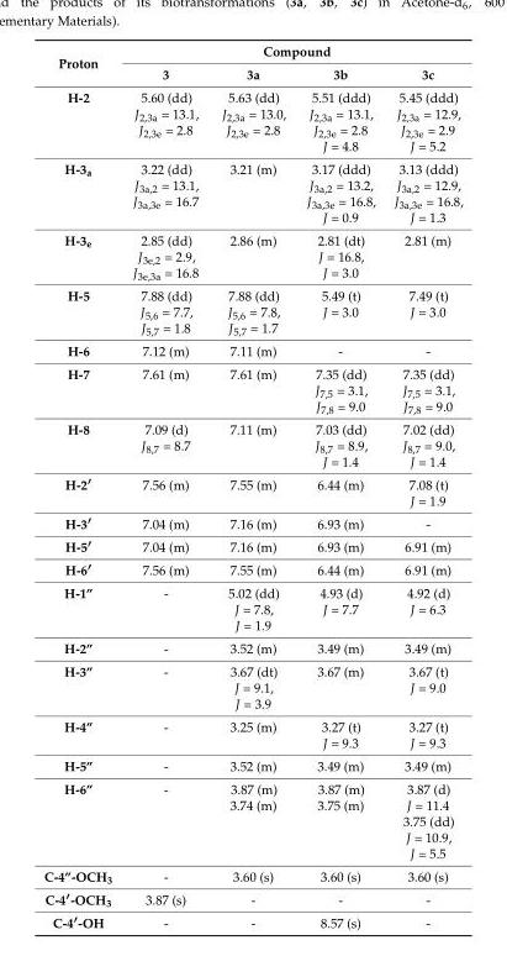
<table><thead><tr><td rowspan="2">Proton</td><td colspan="4">Compound</td></tr><tr><td>3</td><td>3a</td><td>3b</td><td>3c</td></tr></thead><tbody><tr><td>H-2</td><td>5.60 (dd) J2,3a = 13.1, J2,3e = 2.8</td><td>5.63 (dd) J2,3a = 13.0, J2,3e = 2.8</td><td>5.51 (ddd) J2,3a = 13.1, J2,3e = 2.8 J = 4.8</td><td>5.45 (ddd) J2,3a = 12.9, J2,3e = 2.9 J = 5.2</td></tr><tr><td>H-3a</td><td>3.22 (dd) J3a,2 = 13.1, J3a,3e = 16.7</td><td>3.21 (m)</td><td>3.17 (ddd) J3a,2 = 13.2, J3a,3e = 16.8, J = 0.9</td><td>3.13 (ddd) J3a,2 = 12.9, J3a,3e = 16.8, J = 1.3</td></tr><tr><td>H-3e</td><td>2.85 (dd) J3e,2 = 2.9, J3e,3a = 16.8</td><td>2.86 (m)</td><td>2.81 (dt) J = 16.8, J = 3.0</td><td>2.81 (m)</td></tr><tr><td>H-5</td><td>7.88 (dd) J5,6 = 7.7, J5,7 = 1.8</td><td>7.88 (dd) J5,6 = 7.8, J5,7 = 1.7</td><td>5.49 (t) J = 3.0</td><td>7.49 (t) J = 3.0</td></tr><tr><td>H-6</td><td>7.12 (m)</td><td>7.11 (m)</td><td>-</td><td>-</td></tr><tr><td>H-7</td><td>7.61 (m)</td><td>7.61 (m)</td><td>7.35 (dd) J7,5 = 3.1, J7,8 = 9.0</td><td>7.35 (dd) J7,5 = 3.1, J7,8 = 9.0</td></tr><tr><td>H-8</td><td>7.09 (d) J8,7 = 8.7</td><td>7.11 (m)</td><td>7.03 (dd) J8,7 = 8.9, J = 1.4</td><td>7.02 (dd) J8,7 = 9.0, J = 1.4</td></tr><tr><td>H-2′</td><td>7.56 (m)</td><td>7.55 (m)</td><td>6.44 (m)</td><td>7.08 (t) J = 1.9</td></tr><tr><td>H-3′</td><td>7.04 (m)</td><td>7.16 (m)</td><td>6.93 (m)</td><td>-</td></tr><tr><td>H-5′</td><td>7.04 (m)</td><td>7.16 (m)</td><td>6.93 (m)</td><td>6.91 (m)</td></tr><tr><td>H-6′</td><td>7.56 (m)</td><td>7.55 (m)</td><td>6.44 (m)</td><td>6.91 (m)</td></tr><tr><td>H-1”</td><td>-</td><td>5.02 (dd) J = 7.8, J = 1.9</td><td>4.93 (d) J = 7.7</td><td>4.92 (d) J = 6.3</td></tr><tr><td>H-2”</td><td>-</td><td>3.52 (m)</td><td>3.49 (m)</td><td>3.49 (m)</td></tr><tr><td>H-3”</td><td>-</td><td>3.67 (dt) J = 9.1, J = 3.9</td><td>3.67 (m)</td><td>3.67 (t) J = 9.0</td></tr><tr><td>H-4”</td><td>-</td><td>3.25 (m)</td><td>3.27 (t) J = 9.3</td><td>3.27 (t) J = 9.3</td></tr><tr><td>H-5”</td><td>-</td><td>3.52 (m)</td><td>3.49 (m)</td><td>3.49 (m)</td></tr><tr><td>H-6”</td><td>-</td><td>3.87 (m) 3.74 (m)</td><td>3.87 (m) 3.75 (m)</td><td>3.87 (d) J = 11.4 3.75 (dd) J = 10.9, J = 5.5</td></tr><tr><td>C-4”-OCH3</td><td>-</td><td>3.60 (s)</td><td>3.60 (s)</td><td>3.60 (s)</td></tr><tr><td>C-4′-OCH3</td><td>3.87 (s)</td><td>-</td><td>-</td><td>-</td></tr><tr><td>C-4′-OH</td><td>-</td><td>-</td><td>8.57 (s)</td><td>-</td></tr></tbody></table>